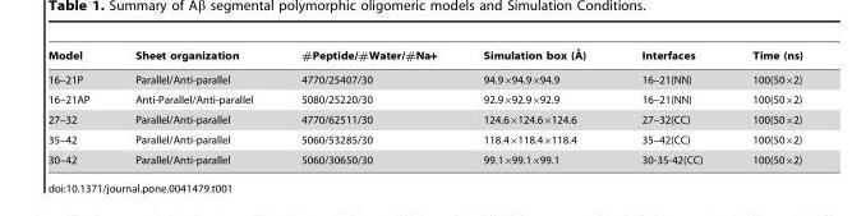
<table><thead><tr><td>Model</td><td>Sheet organization</td><td>#Peptide/#Water/#Na+</td><td>Simulation box (A˚ )</td><td>Interfaces</td><td>Time (ns)</td></tr></thead><tbody><tr><td>16–21P</td><td>Parallel/Anti-parallel</td><td>4770/25407/30</td><td>94.9×94.9×94.9</td><td>16–21(NN)</td><td>100(50×2)</td></tr><tr><td>16–21AP</td><td>Anti-Parallel/Anti-parallel</td><td>5080/25220/30</td><td>92.9×92.9×92.9</td><td>16–21(NN)</td><td>100(50×2)</td></tr><tr><td>27–32</td><td>Parallel/Anti-parallel</td><td>4770/62511/30</td><td>124.6×124.6×124.6</td><td>27–32(CC)</td><td>100(50×2)</td></tr><tr><td>35–42</td><td>Parallel/Anti-parallel</td><td>5060/53285/30</td><td>118.4×118.4×118.4</td><td>35–42(CC)</td><td>100(50×2)</td></tr><tr><td>30–42</td><td>Parallel/Anti-parallel</td><td>5060/30650/30</td><td>99.1×99.1×99.1</td><td>30-35-42(CC)</td><td>100(50×2)</td></tr></tbody></table>